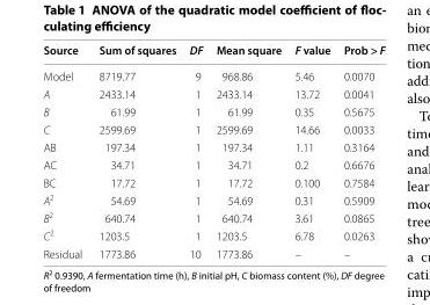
<table><thead><tr><td>Source</td><td>Sum of squares</td><td>DF</td><td>Mean square</td><td>F value</td><td>Prob &gt; F</td></tr></thead><tbody><tr><td>Model</td><td>8719.77</td><td>9</td><td>968.86</td><td>5.46</td><td>0.0070</td></tr><tr><td>A</td><td>2433.14</td><td>1</td><td>2433.14</td><td>13.72</td><td>0.0041</td></tr><tr><td>B</td><td>61.99</td><td>1</td><td>61.99</td><td>0.35</td><td>0.5675</td></tr><tr><td>C</td><td>2599.69</td><td>1</td><td>2599.69</td><td>14.66</td><td>0.0033</td></tr><tr><td>AB</td><td>197.34</td><td>1</td><td>197.34</td><td>1.11</td><td>0.3164</td></tr><tr><td>AC</td><td>34.71</td><td>1</td><td>34.71</td><td>0.2</td><td>0.6676</td></tr><tr><td>BC</td><td>17.72</td><td>1</td><td>17.72</td><td>0.100</td><td>0.7584</td></tr><tr><td>A<sup>2</sup></td><td>54.69</td><td>1</td><td>54.69</td><td>0.31</td><td>0.5909</td></tr><tr><td>B<sup>2</sup></td><td>640.74</td><td>1</td><td>640.74</td><td>3.61</td><td>0.0865</td></tr><tr><td>C<sup>2</sup></td><td>1203.5</td><td>1</td><td>1203.5</td><td>6.78</td><td>0.0263</td></tr><tr><td>Residual</td><td>1773.86</td><td>10</td><td>1773.86</td><td>–</td><td>–</td></tr></tbody></table>